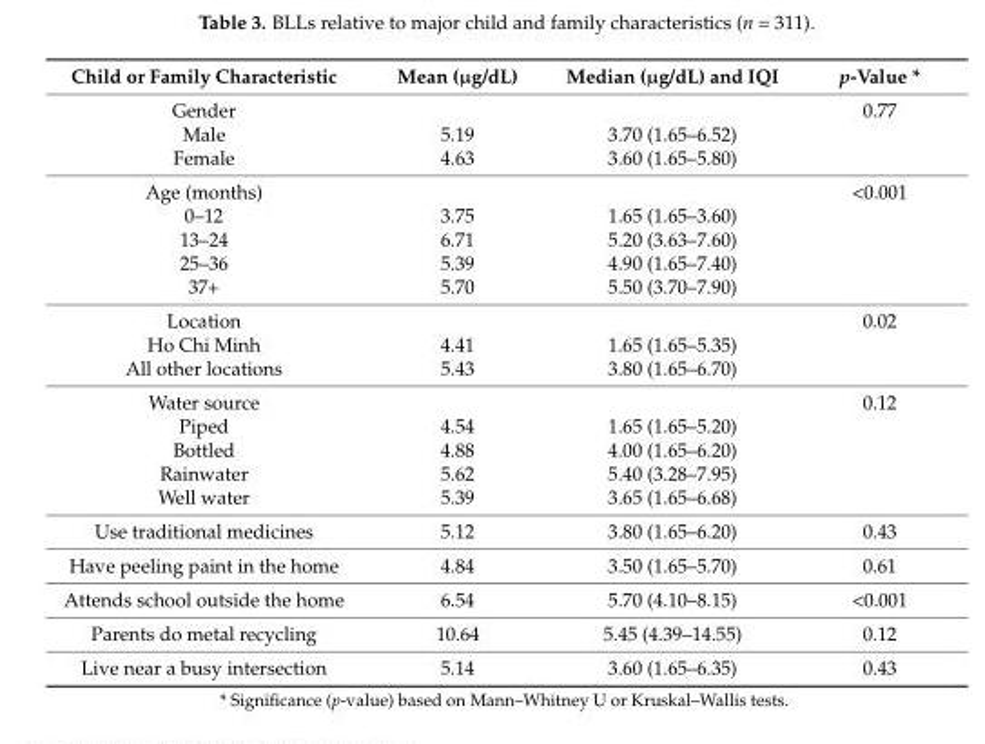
<table><thead><tr><td>Child or Family Characteristic</td><td>Mean (µg/dL)</td><td>Median (µg/dL) and IQI</td><td>p-Value *</td></tr></thead><tbody><tr><td>Gender</td><td></td><td></td><td>0.77</td></tr><tr><td>Male</td><td>5.19</td><td>3.70 (1.65–6.52)</td><td></td></tr><tr><td>Female</td><td>4.63</td><td>3.60 (1.65–5.80)</td><td></td></tr><tr><td>Age (months)</td><td></td><td></td><td>&lt;0.001</td></tr><tr><td>0–12</td><td>3.75</td><td>1.65 (1.65–3.60)</td><td></td></tr><tr><td>13–24</td><td>6.71</td><td>5.20 (3.63–7.60)</td><td></td></tr><tr><td>25–36</td><td>5.39</td><td>4.90 (1.65–7.40)</td><td></td></tr><tr><td>37+</td><td>5.70</td><td>5.50 (3.70–7.90)</td><td></td></tr><tr><td>Location</td><td></td><td></td><td>0.02</td></tr><tr><td>Ho Chi Minh</td><td>4.41</td><td>1.65 (1.65–5.35)</td><td></td></tr><tr><td>All other locations</td><td>5.43</td><td>3.80 (1.65–6.70)</td><td></td></tr><tr><td>Water source</td><td></td><td></td><td>0.12</td></tr><tr><td>Piped</td><td>4.54</td><td>1.65 (1.65–5.20)</td><td></td></tr><tr><td>Bottled</td><td>4.88</td><td>4.00 (1.65–6.20)</td><td></td></tr><tr><td>Rainwater</td><td>5.62</td><td>5.40 (3.28–7.95)</td><td></td></tr><tr><td>Well water</td><td>5.39</td><td>3.65 (1.65–6.68)</td><td></td></tr><tr><td>Use traditional medicines</td><td>5.12</td><td>3.80 (1.65–6.20)</td><td>0.43</td></tr><tr><td>Have peeling paint in the home</td><td>4.84</td><td>3.50 (1.65–5.70)</td><td>0.61</td></tr><tr><td>Attends school outside the home</td><td>6.54</td><td>5.70 (4.10–8.15)</td><td>&lt;0.001</td></tr><tr><td>Parents do metal recycling</td><td>10.64</td><td>5.45 (4.39–14.55)</td><td>0.12</td></tr><tr><td>Live near a busy intersection</td><td>5.14</td><td>3.60 (1.65–6.35)</td><td>0.43</td></tr></tbody></table>